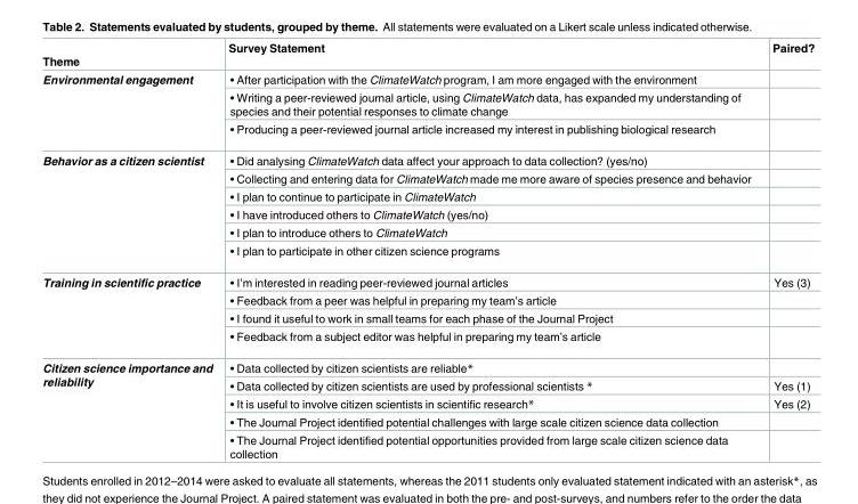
<table><thead><tr><td>Theme</td><td>Survey Statement</td><td>Paired?</td></tr></thead><tbody><tr><td rowspan="3">Environmental engagement</td><td>• After participation with the ClimateWatch program, I am more engaged with the environment</td><td></td></tr><tr><td>• Writing a peer-reviewed journal article, using ClimateWatch data, has expanded my understanding of species and their potential responses to climate change</td><td></td></tr><tr><td>• Producing a peer-reviewed journal article increased my interest in publishing biological research</td><td></td></tr><tr><td rowspan="6">Behavior as a citizen scientist</td><td>• Did analysing ClimateWatch data affect your approach to data collection? (yes/no)</td><td></td></tr><tr><td>• Collecting and entering data for ClimateWatch made me more aware of species presence and behavior</td><td></td></tr><tr><td>• I plan to continue to participate in ClimateWatch</td><td></td></tr><tr><td>• I have introduced others to ClimateWatch (yes/no)</td><td></td></tr><tr><td>• I plan to introduce others to ClimateWatch</td><td></td></tr><tr><td>• I plan to participate in other citizen science programs</td><td></td></tr><tr><td rowspan="4">Training in scientific practice</td><td>• I’m interested in reading peer-reviewed journal articles</td><td>Yes (3)</td></tr><tr><td>• Feedback from a peer was helpful in preparing my team’s article</td><td></td></tr><tr><td>• I found it useful to work in small teams for each phase of the Journal Project</td><td></td></tr><tr><td>• Feedback from a subject editor was helpful in preparing my team’s article</td><td></td></tr><tr><td rowspan="5">Citizen science importance and reliability</td><td>• Data collected by citizen scientists are reliable*</td><td></td></tr><tr><td>• Data collected by citizen scientists are used by professional scientists *</td><td>Yes (1)</td></tr><tr><td>• It is useful to involve citizen scientists in scientific research*</td><td>Yes (2)</td></tr><tr><td>• The Journal Project identified potential challenges with large scale citizen science data collection</td><td></td></tr><tr><td>• The Journal Project identified potential opportunities provided from large scale citizen science data collection</td><td></td></tr></tbody></table>